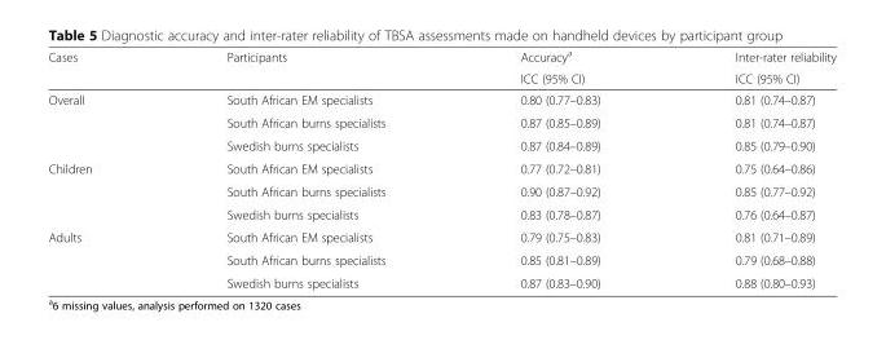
<table><thead><tr><td rowspan="2">Cases</td><td rowspan="2">Participants</td><td rowspan="2">Accuracy<sup>a</sup> ICC (95% CI)</td><td rowspan="2">Inter-rater reliability ICC (95% CI)</td></tr><tr></tr></thead><tbody><tr><td rowspan="3">Overall</td><td>South African EM specialists</td><td>0.80 (0.77–0.83)</td><td>0.81 (0.74–0.87)</td></tr><tr><td>South African burns specialists</td><td>0.87 (0.85–0.89)</td><td>0.81 (0.74–0.87)</td></tr><tr><td>Swedish burns specialists</td><td>0.87 (0.84–0.89)</td><td>0.85 (0.79–0.90)</td></tr><tr><td rowspan="3">Children</td><td>South African EM specialists</td><td>0.77 (0.72–0.81)</td><td>0.75 (0.64–0.86)</td></tr><tr><td>South African burns specialists</td><td>0.90 (0.87–0.92)</td><td>0.85 (0.77–0.92)</td></tr><tr><td>Swedish burns specialists</td><td>0.83 (0.78–0.87)</td><td>0.76 (0.64–0.87)</td></tr><tr><td rowspan="3">Adults</td><td>South African EM specialists</td><td>0.79 (0.75–0.83)</td><td>0.81 (0.71–0.89)</td></tr><tr><td>South African burns specialists</td><td>0.85 (0.81–0.89)</td><td>0.79 (0.68–0.88)</td></tr><tr><td>Swedish burns specialists</td><td>0.87 (0.83–0.90)</td><td>0.88 (0.80–0.93)</td></tr></tbody></table>